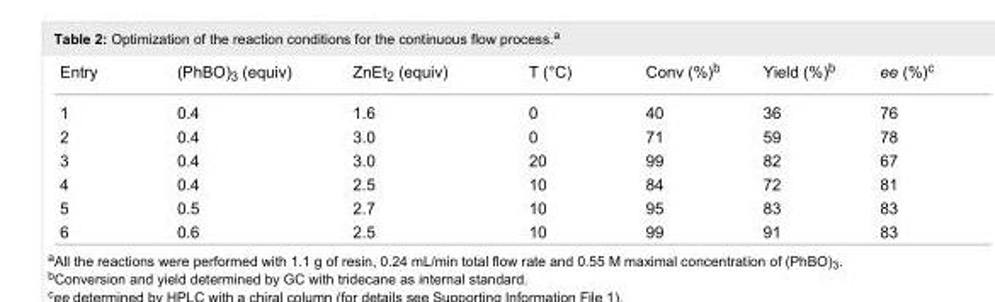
<table><tbody><tr><td>Entry</td><td>(PhBO)<sub>3</sub> (equiv)</td><td>ZnEt<sub>2</sub> (equiv)</td><td>T (°C)</td><td>Conv (%)<sup>b</sup></td><td>Yield (%)<sup>b</sup></td><td>ee (%)<sup>c</sup></td></tr><tr><td>1</td><td>0.4</td><td>1.6</td><td>0</td><td>40</td><td>36</td><td>76</td></tr><tr><td>2</td><td>0.4</td><td>3.0</td><td>0</td><td>71</td><td>59</td><td>78</td></tr><tr><td>3</td><td>0.4</td><td>3.0</td><td>20</td><td>99</td><td>82</td><td>67</td></tr><tr><td>4</td><td>0.4</td><td>2.5</td><td>10</td><td>84</td><td>72</td><td>81</td></tr><tr><td>5</td><td>0.5</td><td>2.7</td><td>10</td><td>95</td><td>83</td><td>83</td></tr><tr><td>6</td><td>0.6</td><td>2.5</td><td>10</td><td>99</td><td>91</td><td>83</td></tr></tbody></table>